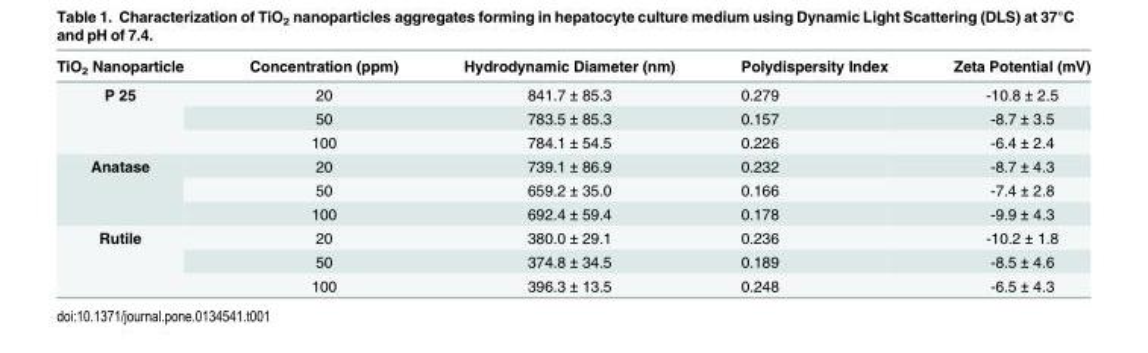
<table><thead><tr><td>TiO<sub>2</sub> Nanoparticle</td><td>Concentration (ppm)</td><td>Hydrodynamic Diameter (nm)</td><td>Polydispersity Index</td><td>Zeta Potential (mV)</td></tr></thead><tbody><tr><td rowspan="3">P 25</td><td>20</td><td>841.7 ± 85.3</td><td>0.279</td><td>-10.8 ± 2.5</td></tr><tr><td>50</td><td>783.5 ± 85.3</td><td>0.157</td><td>-8.7 ± 3.5</td></tr><tr><td>100</td><td>784.1 ± 54.5</td><td>0.226</td><td>-6.4 ± 2.4</td></tr><tr><td rowspan="3">Anatase</td><td>20</td><td>739.1 ± 86.9</td><td>0.232</td><td>-8.7 ± 4.3</td></tr><tr><td>50</td><td>659.2 ± 35.0</td><td>0.166</td><td>-7.4 ± 2.8</td></tr><tr><td>100</td><td>692.4 ± 59.4</td><td>0.178</td><td>-9.9 ± 4.3</td></tr><tr><td rowspan="3">Rutile</td><td>20</td><td>380.0 ± 29.1</td><td>0.236</td><td>-10.2 ± 1.8</td></tr><tr><td>50</td><td>374.8 ± 34.5</td><td>0.189</td><td>-8.5 ± 4.6</td></tr><tr><td>100</td><td>396.3 ± 13.5</td><td>0.248</td><td>-6.5 ± 4.3</td></tr></tbody></table>